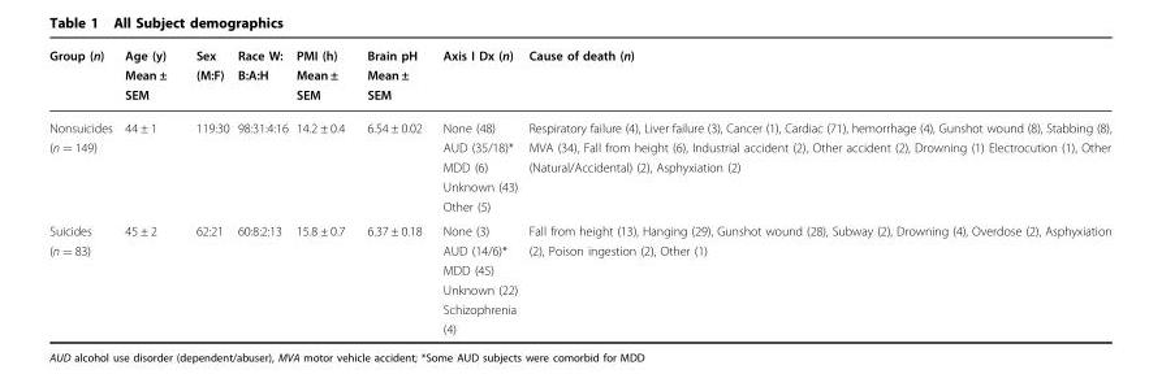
<table><thead><tr><td>Group (n)</td><td>Age (y) Mean ± SEM</td><td>Sex (M:F)</td><td>Race W: B:A:H</td><td>PMI (h) Mean ± SEM</td><td>Brain pH Mean ± SEM</td><td>Axis I Dx (n)</td><td>Cause of death (n)</td></tr></thead><tbody><tr><td>Nonsuicides (n = 149)</td><td>44 ± 1</td><td>119:30</td><td>98:31:4:16</td><td>14.2 ± 0.4</td><td>6.54 ± 0.02</td><td>None (48) AUD (35/18)* MDD (6) Unknown (43) Other (5)</td><td>Respiratory failure (4), Liver failure (3), Cancer (1), Cardiac (71), hemorrhage (4), Gunshot wound (8), Stabbing (8), MVA (34), Fall from height (6), Industrial accident (2), Other accident (2), Drowning (1) Electrocution (1), Other (Natural/Accidental) (2), Asphyxiation (2)</td></tr><tr><td>Suicides (n = 83)</td><td>45 ± 2</td><td>62:21</td><td>60:8:2:13</td><td>15.8 ± 0.7</td><td>6.37 ± 0.18</td><td>None (3) AUD (14/6)* MDD (45) Unknown (22) Schizophrenia (4)</td><td>Fall from height (13), Hanging (29), Gunshot wound (28), Subway (2), Drowning (4), Overdose (2), Asphyxiation (2), Poison ingestion (2), Other (1)</td></tr></tbody></table>